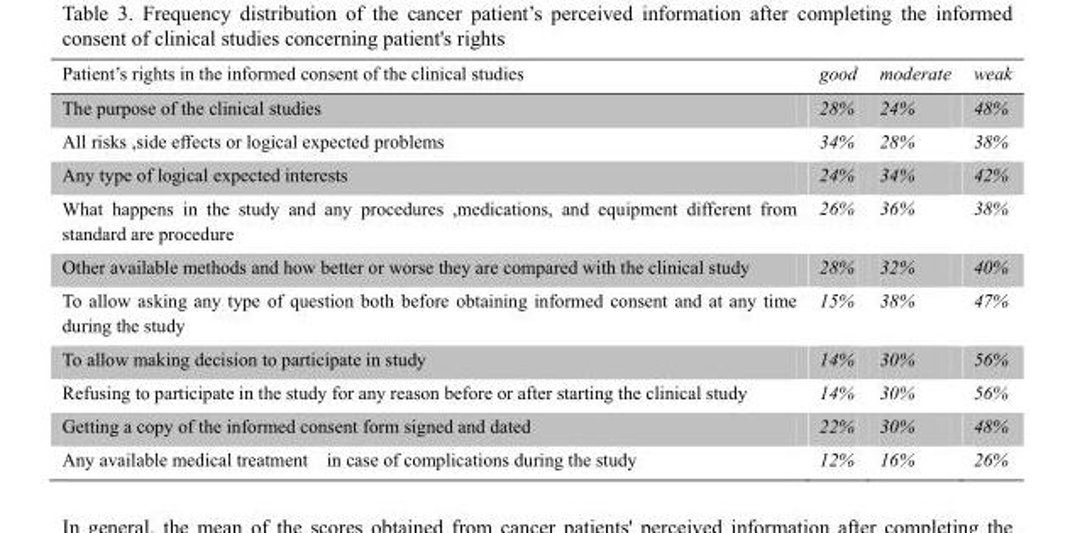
<table><thead><tr><td>Patient’s rights in the informed consent of the clinical studies</td><td>good</td><td>moderate</td><td>weak</td></tr></thead><tbody><tr><td>The purpose of the clinical studies</td><td>28%</td><td>24%</td><td>48%</td></tr><tr><td>All risks ,side effects or logical expected problems</td><td>34%</td><td>28%</td><td>38%</td></tr><tr><td>Any type of logical expected interests</td><td>24%</td><td>34%</td><td>42%</td></tr><tr><td>What happens in the study and any procedures ,medications, and equipment different from standard are procedure</td><td>26%</td><td>36%</td><td>38%</td></tr><tr><td>Other available methods and how better or worse they are compared with the clinical study</td><td>28%</td><td>32%</td><td>40%</td></tr><tr><td>To allow asking any type of question both before obtaining informed consent and at any time during the study</td><td>15%</td><td>38%</td><td>47%</td></tr><tr><td>To allow making decision to participate in study</td><td>14%</td><td>30%</td><td>56%</td></tr><tr><td>Refusing to participate in the study for any reason before or after starting the clinical study</td><td>14%</td><td>30%</td><td>56%</td></tr><tr><td>Getting a copy of the informed consent form signed and dated</td><td>22%</td><td>30%</td><td>48%</td></tr><tr><td>Any available medical treatment in case of complications during the study</td><td>12%</td><td>16%</td><td>26%</td></tr></tbody></table>